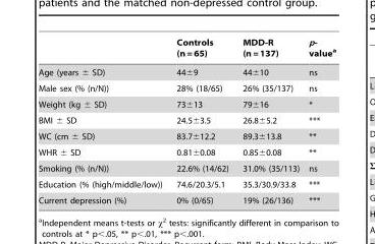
<table><thead><tr><td></td><td>Controls (n = 65)</td><td>MDD-R (n = 137)</td><td>p- value<sup>a</sup></td></tr></thead><tbody><tr><td>Age (years ± SD)</td><td>44±9</td><td>44±10</td><td>ns</td></tr><tr><td>Male sex (% (n/N))</td><td>28% (18/65)</td><td>26% (35/137)</td><td>ns</td></tr><tr><td>Weight (kg ± SD)</td><td>73±13</td><td>79±16</td><td>*</td></tr><tr><td>BMI ± SD</td><td>24.5±3.5</td><td>26.8±5.2</td><td>***</td></tr><tr><td>WC (cm ± SD)</td><td>83.7±12.2</td><td>89.3±13.8</td><td>**</td></tr><tr><td>WHR ± SD</td><td>0.81±0.08</td><td>0.85±0.08</td><td>**</td></tr><tr><td>Smoking (% (n/N))</td><td>22.6% (14/62)</td><td>31.0% (35/113)</td><td>ns</td></tr><tr><td>Education (% (high/middle/low))</td><td>74.6/20.3/5.1</td><td>35.3/30.9/33.8</td><td>***</td></tr><tr><td>Current depression (%)</td><td>0% (0/65)</td><td>19% (26/136)</td><td>***</td></tr></tbody></table>